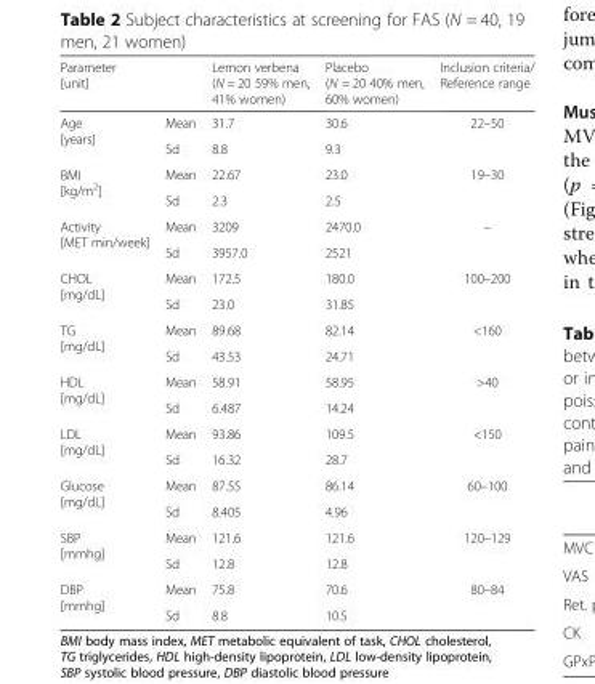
<table><thead><tr><td>Parameter [unit]</td><td></td><td>Lemon verbena (N = 20 59% men, 41% women)</td><td>Placebo (N = 20 40% men, 60% women)</td><td>Inclusion criteria/ Reference range</td></tr></thead><tbody><tr><td rowspan="2">Age [years]</td><td>Mean</td><td>31.7</td><td>30.6</td><td rowspan="2">22–50</td></tr><tr><td>Sd</td><td>8.8</td><td>9.3</td></tr><tr><td rowspan="2">BMI [kg/m<sup>2</sup>]</td><td>Mean</td><td>22.67</td><td>23.0</td><td rowspan="2">19–30</td></tr><tr><td>Sd</td><td>2.3</td><td>2.5</td></tr><tr><td rowspan="2">Activity [MET min/week]</td><td>Mean</td><td>3209</td><td>2470.0</td><td rowspan="2">–</td></tr><tr><td>Sd</td><td>3957.0</td><td>2521</td></tr><tr><td rowspan="2">CHOL [mg/dL]</td><td>Mean</td><td>172.5</td><td>180.0</td><td rowspan="2">100–200</td></tr><tr><td>Sd</td><td>23.0</td><td>31.85</td></tr><tr><td rowspan="2">TG [mg/dL]</td><td>Mean</td><td>89.68</td><td>82.14</td><td rowspan="2">&lt;160</td></tr><tr><td>Sd</td><td>43.53</td><td>24.71</td></tr><tr><td rowspan="2">HDL [mg/dL]</td><td>Mean</td><td>58.91</td><td>58.95</td><td rowspan="2">&gt;40</td></tr><tr><td>Sd</td><td>6.487</td><td>14.24</td></tr><tr><td rowspan="2">LDL [mg/dL]</td><td>Mean</td><td>93.86</td><td>109.5</td><td rowspan="2">&lt;150</td></tr><tr><td>Sd</td><td>16.32</td><td>28.7</td></tr><tr><td rowspan="2">Glucose [mg/dL]</td><td>Mean</td><td>87.55</td><td>86.14</td><td rowspan="2">60–100</td></tr><tr><td>Sd</td><td>8.405</td><td>4.96</td></tr><tr><td rowspan="2">SBP [mmhg]</td><td>Mean</td><td>121.6</td><td>121.6</td><td rowspan="2">120–129</td></tr><tr><td>Sd</td><td>12.8</td><td>12.8</td></tr><tr><td rowspan="2">DBP [mmhg]</td><td>Mean</td><td>75.8</td><td>70.6</td><td rowspan="2">80–84</td></tr><tr><td>Sd</td><td>8.8</td><td>10.5</td></tr></tbody></table>